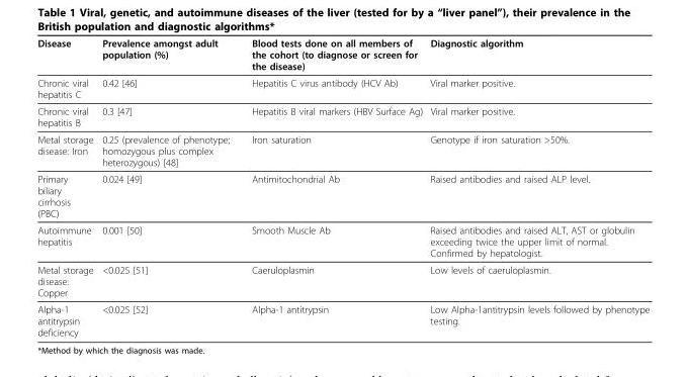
<table><thead><tr><td>Disease</td><td>Prevalence amongst adult population (%)</td><td>Blood tests done on all members of the cohort (to diagnose or screen for the disease)</td><td>Diagnostic algorithm</td></tr></thead><tbody><tr><td>Chronic viral hepatitis C</td><td>0.42 [46]</td><td>Hepatitis C virus antibody (HCV Ab)</td><td>Viral marker positive.</td></tr><tr><td>Chronic viral hepatitis B</td><td>0.3 [47]</td><td>Hepatitis B viral markers (HBV Surface Ag)</td><td>Viral marker positive.</td></tr><tr><td>Metal storage disease: Iron</td><td>0.25 (prevalence of phenotype; homozygous plus complex heterozygous) [48]</td><td>Iron saturation</td><td>Genotype if iron saturation &gt;50%.</td></tr><tr><td>Primary biliary cirrhosis (PBC)</td><td>0.024 [49]</td><td>Antimitochondrial Ab</td><td>Raised antibodies and raised ALP level.</td></tr><tr><td>Autoimmune hepatitis</td><td>0.001 [50]</td><td>Smooth Muscle Ab</td><td>Raised antibodies and raised ALT, AST or globulin exceeding twice the upper limit of normal. Confirmed by hepatologist.</td></tr><tr><td>Metal storage disease: Copper</td><td>&lt;0.025 [51]</td><td>Caeruloplasmin</td><td>Low levels of caeruloplasmin.</td></tr><tr><td>Alpha-1 antitrypsin deficiency</td><td>&lt;0.025 [52]</td><td>Alpha-1 antitrypsin</td><td>Low Alpha-1antitrypsin levels followed by phenotype testing.</td></tr></tbody></table>